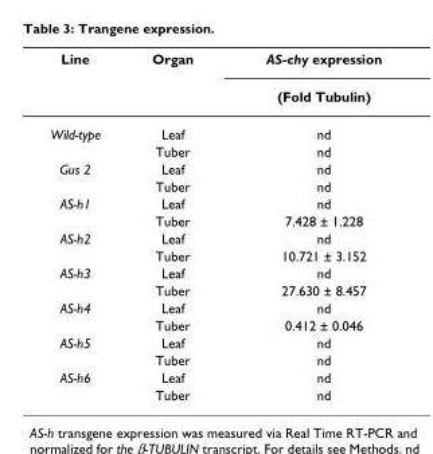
<table><thead><tr><td rowspan="2">Line</td><td rowspan="2">Organ</td><td rowspan="2">AS-chy expression (Fold Tubulin)</td></tr><tr></tr></thead><tbody><tr><td rowspan="2">Wild-type</td><td>Leaf</td><td>nd</td></tr><tr><td>Tuber</td><td>nd</td></tr><tr><td rowspan="2">Gus 2</td><td>Leaf</td><td>nd</td></tr><tr><td>Tuber</td><td>nd</td></tr><tr><td rowspan="2">AS-h1</td><td>Leaf</td><td>nd</td></tr><tr><td>Tuber</td><td>7.428 ± 1.228</td></tr><tr><td rowspan="2">AS-h2</td><td>Leaf</td><td>nd</td></tr><tr><td>Tuber</td><td>10.721 ± 3.152</td></tr><tr><td rowspan="2">AS-h3</td><td>Leaf</td><td>nd</td></tr><tr><td>Tuber</td><td>27.630 ± 8.457</td></tr><tr><td rowspan="2">AS-h4</td><td>Leaf</td><td>nd</td></tr><tr><td>Tuber</td><td>0.412 ± 0.046</td></tr><tr><td rowspan="2">AS-h5</td><td>Leaf</td><td>nd</td></tr><tr><td>Tuber</td><td>nd</td></tr><tr><td rowspan="2">AS-h6</td><td>Leaf</td><td>nd</td></tr><tr><td>Tuber</td><td>nd</td></tr></tbody></table>